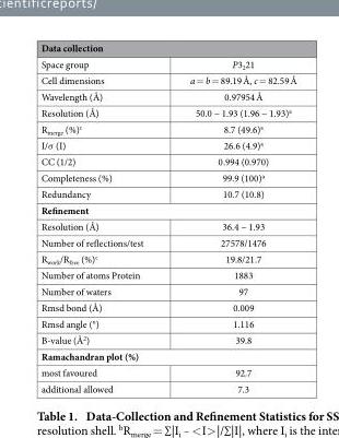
<table><thead><tr><td colspan="2">Data collection</td></tr><tr><td>Space group</td><td>P3<sub>2</sub>21</td></tr></thead><tbody><tr><td>Cell dimensions</td><td>a = b = 89.19 Å, c = 82.59 Å</td></tr><tr><td>Wavelength (Å)</td><td>0.97954 Å</td></tr><tr><td>Resolution (Å)</td><td>50.0 − 1.93 (1.96 − 1.93)<sup>a</sup></td></tr><tr><td>R<sub>merge</sub> (%)<sup>c</sup></td><td>8.7 (49.6)<sup>a</sup></td></tr><tr><td>I/σ (I)</td><td>26.6 (4.9)<sup>a</sup></td></tr><tr><td>CC (1/2)</td><td>0.994 (0.970)</td></tr><tr><td>Completeness (%)</td><td>99.9 (100)<sup>a</sup></td></tr><tr><td>Redundancy</td><td>10.7 (10.8)</td></tr><tr><td colspan="2">Refinement</td></tr><tr><td>Resolution (Å)</td><td>36.4 − 1.93</td></tr><tr><td>Number of reflections/test</td><td>27578/1476</td></tr><tr><td>R<sub>work</sub>/R<sub>free</sub> (%)<sup>c</sup></td><td>19.8/21.7</td></tr><tr><td>Number of atoms Protein</td><td>1883</td></tr><tr><td>Number of waters</td><td>97</td></tr><tr><td>Rmsd bond (Å)</td><td>0.009</td></tr><tr><td>Rmsd angle (°)</td><td>1.116</td></tr><tr><td>B-value (Å<sup>2</sup>)</td><td>39.8</td></tr><tr><td colspan="2">Ramachandran plot (%)</td></tr><tr><td>most favoured</td><td>92.7</td></tr><tr><td>additional allowed</td><td>7.3</td></tr></tbody></table>